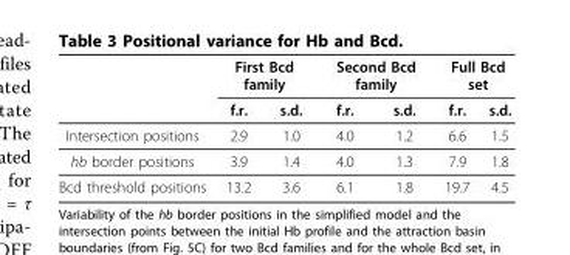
<table><thead><tr><td rowspan="2"></td><td colspan="2">First Bcd family</td><td colspan="2">Second Bcd family</td><td colspan="2">Full Bcd set</td></tr><tr><td>f.r.</td><td>s.d.</td><td>f.r.</td><td>s.d.</td><td>f.r.</td><td>s.d.</td></tr></thead><tbody><tr><td>Intersection positions</td><td>2.9</td><td>1.0</td><td>4.0</td><td>1.2</td><td>6.6</td><td>1.5</td></tr><tr><td>hb border positions</td><td>3.9</td><td>1.4</td><td>4.0</td><td>1.3</td><td>7.9</td><td>1.8</td></tr><tr><td>Bcd threshold positions</td><td>13.2</td><td>3.6</td><td>6.1</td><td>1.8</td><td>19.7</td><td>4.5</td></tr></tbody></table>